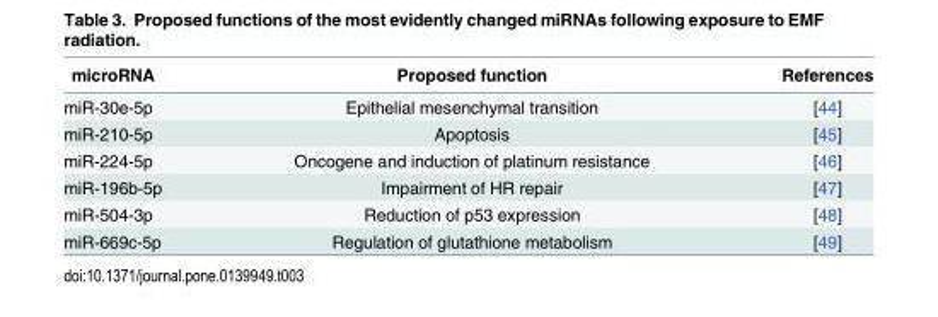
<table><thead><tr><td>microRNA</td><td>Proposed function</td><td>References</td></tr></thead><tbody><tr><td>miR-30e-5p</td><td>Epithelial mesenchymal transition</td><td>[44]</td></tr><tr><td>miR-210-5p</td><td>Apoptosis</td><td>[45]</td></tr><tr><td>miR-224-5p</td><td>Oncogene and induction of platinum resistance</td><td>[46]</td></tr><tr><td>miR-196b-5p</td><td>Impairment of HR repair</td><td>[47]</td></tr><tr><td>miR-504-3p</td><td>Reduction of p53 expression</td><td>[48]</td></tr><tr><td>miR-669c-5p</td><td>Regulation of glutathione metabolism</td><td>[49]</td></tr></tbody></table>